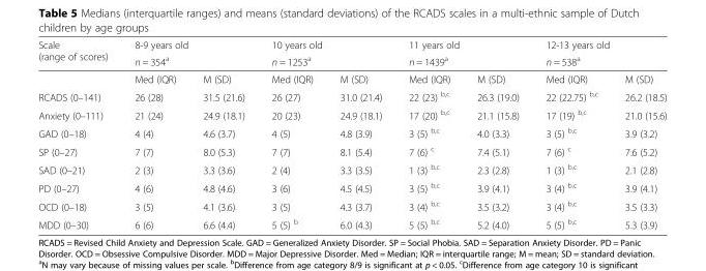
<table><thead><tr><td rowspan="3">Scale (range of scores)</td><td rowspan="2" colspan="2">8-9 years old n = 354<sup>a</sup></td><td rowspan="2" colspan="2">10 years old n = 1253<sup>a</sup></td><td rowspan="2" colspan="2">11 years old n = 1439<sup>a</sup></td><td rowspan="2" colspan="2">12-13 years old n = 538<sup>a</sup></td></tr><tr></tr><tr><td>Med (IQR)</td><td>M (SD)</td><td>Med (IQR)</td><td>M (SD)</td><td>Med (IQR)</td><td>M (SD)</td><td>Med (IQR)</td><td>M (SD)</td></tr></thead><tbody><tr><td>RCADS (0–141)</td><td>26 (28)</td><td>31.5 (21.6)</td><td>26 (27)</td><td>31.0 (21.4)</td><td>22 (23) <sup>b,c</sup></td><td>26.3 (19.0)</td><td>22 (22.75) <sup>b,c</sup></td><td>26.2 (18.5)</td></tr><tr><td>Anxiety (0–111)</td><td>21 (24)</td><td>24.9 (18.1)</td><td>20 (23)</td><td>24.9 (18.1)</td><td>17 (20) <sup>b,c</sup></td><td>21.1 (15.8)</td><td>17 (19) <sup>b,c</sup></td><td>21.0 (15.6)</td></tr><tr><td>GAD (0–18)</td><td>4 (4)</td><td>4.6 (3.7)</td><td>4 (5)</td><td>4.8 (3.9)</td><td>3 (5) <sup>b,c</sup></td><td>4.0 (3.3)</td><td>3 (5) <sup>b,c</sup></td><td>3.9 (3.2)</td></tr><tr><td>SP (0–27)</td><td>7 (7)</td><td>8.0 (5.3)</td><td>7 (7)</td><td>8.1 (5.4)</td><td>7 (6) <sup>c</sup></td><td>7.4 (5.1)</td><td>7 (6) <sup>c</sup></td><td>7.6 (5.2)</td></tr><tr><td>SAD (0–21)</td><td>2 (3)</td><td>3.3 (3.6)</td><td>2 (4)</td><td>3.3 (3.5)</td><td>1 (3) <sup>b,c</sup></td><td>2.3 (2.8)</td><td>1 (3) <sup>b,c</sup></td><td>2.1 (2.8)</td></tr><tr><td>PD (0–27)</td><td>4 (6)</td><td>4.8 (4.6)</td><td>3 (6)</td><td>4.5 (4.5)</td><td>3 (5) <sup>b,c</sup></td><td>3.9 (4.1)</td><td>3 (4) <sup>b,c</sup></td><td>3.9 (4.1)</td></tr><tr><td>OCD (0–18)</td><td>3 (5)</td><td>4.1 (3.6)</td><td>3 (5)</td><td>4.3 (3.7)</td><td>3 (4) <sup>b,c</sup></td><td>3.5 (3.2)</td><td>3 (4) <sup>b,c</sup></td><td>3.5 (3.3)</td></tr><tr><td>MDD (0–30)</td><td>6 (6)</td><td>6.6 (4.4)</td><td>5 (5) <sup>b</sup></td><td>6.0 (4.3)</td><td>5 (5) <sup>b,c</sup></td><td>5.2 (4.0)</td><td>5 (5) <sup>b,c</sup></td><td>5.3 (3.9)</td></tr></tbody></table>